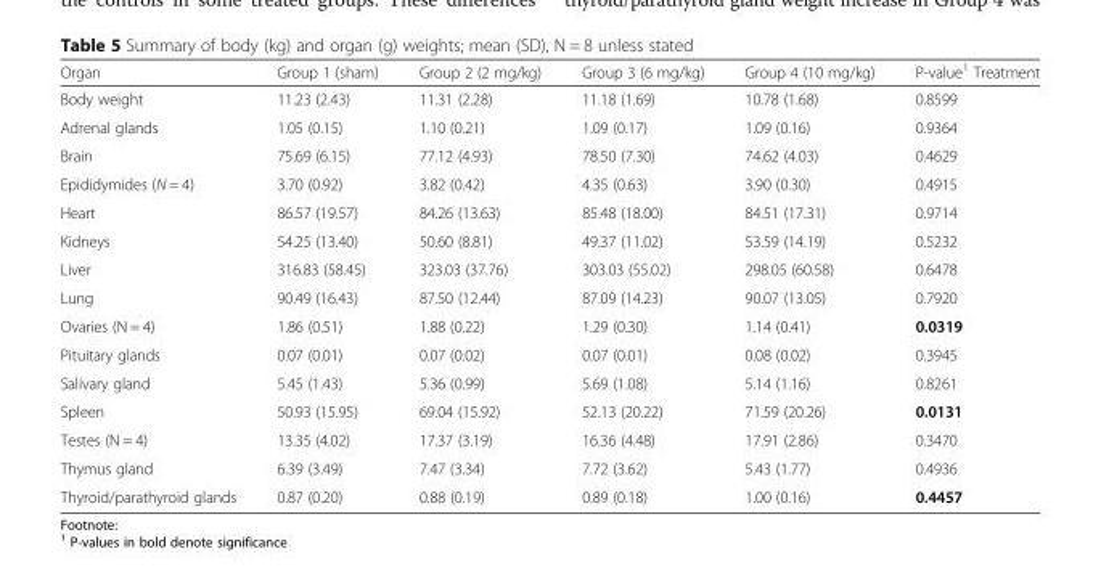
<table><thead><tr><td>Organ</td><td>Group 1 (sham)</td><td>Group 2 (2 mg/kg)</td><td>Group 3 (6 mg/kg)</td><td>Group 4 (10 mg/kg)</td><td>P-value<sup>1</sup> Treatment</td></tr></thead><tbody><tr><td>Body weight</td><td>11.23 (2.43)</td><td>11.31 (2.28)</td><td>11.18 (1.69)</td><td>10.78 (1.68)</td><td>0.8599</td></tr><tr><td>Adrenal glands</td><td>1.05 (0.15)</td><td>1.10 (0.21)</td><td>1.09 (0.17)</td><td>1.09 (0.16)</td><td>0.9364</td></tr><tr><td>Brain</td><td>75.69 (6.15)</td><td>77.12 (4.93)</td><td>78.50 (7.30)</td><td>74.62 (4.03)</td><td>0.4629</td></tr><tr><td>Epididymides (N = 4)</td><td>3.70 (0.92)</td><td>3.82 (0.42)</td><td>4.35 (0.63)</td><td>3.90 (0.30)</td><td>0.4915</td></tr><tr><td>Heart</td><td>86.57 (19.57)</td><td>84.26 (13.63)</td><td>85.48 (18.00)</td><td>84.51 (17.31)</td><td>0.9714</td></tr><tr><td>Kidneys</td><td>54.25 (13.40)</td><td>50.60 (8.81)</td><td>49.37 (11.02)</td><td>53.59 (14.19)</td><td>0.5232</td></tr><tr><td>Liver</td><td>316.83 (58.45)</td><td>323.03 (37.76)</td><td>303.03 (55.02)</td><td>298.05 (60.58)</td><td>0.6478</td></tr><tr><td>Lung</td><td>90.49 (16.43)</td><td>87.50 (12.44)</td><td>87.09 (14.23)</td><td>90.07 (13.05)</td><td>0.7920</td></tr><tr><td>Ovaries (N = 4)</td><td>1.86 (0.51)</td><td>1.88 (0.22)</td><td>1.29 (0.30)</td><td>1.14 (0.41)</td><td>0.0319</td></tr><tr><td>Pituitary glands</td><td>0.07 (0.01)</td><td>0.07 (0.02)</td><td>0.07 (0.01)</td><td>0.08 (0.02)</td><td>0.3945</td></tr><tr><td>Salivary gland</td><td>5.45 (1.43)</td><td>5.36 (0.99)</td><td>5.69 (1.08)</td><td>5.14 (1.16)</td><td>0.8261</td></tr><tr><td>Spleen</td><td>50.93 (15.95)</td><td>69.04 (15.92)</td><td>52.13 (20.22)</td><td>71.59 (20.26)</td><td>0.0131</td></tr><tr><td>Testes (N = 4)</td><td>13.35 (4.02)</td><td>17.37 (3.19)</td><td>16.36 (4.48)</td><td>17.91 (2.86)</td><td>0.3470</td></tr><tr><td>Thymus gland</td><td>6.39 (3.49)</td><td>7.47 (3.34)</td><td>7.72 (3.62)</td><td>5.43 (1.77)</td><td>0.4936</td></tr><tr><td>Thyroid/parathyroid glands</td><td>0.87 (0.20)</td><td>0.88 (0.19)</td><td>0.89 (0.18)</td><td>1.00 (0.16)</td><td>0.4457</td></tr></tbody></table>